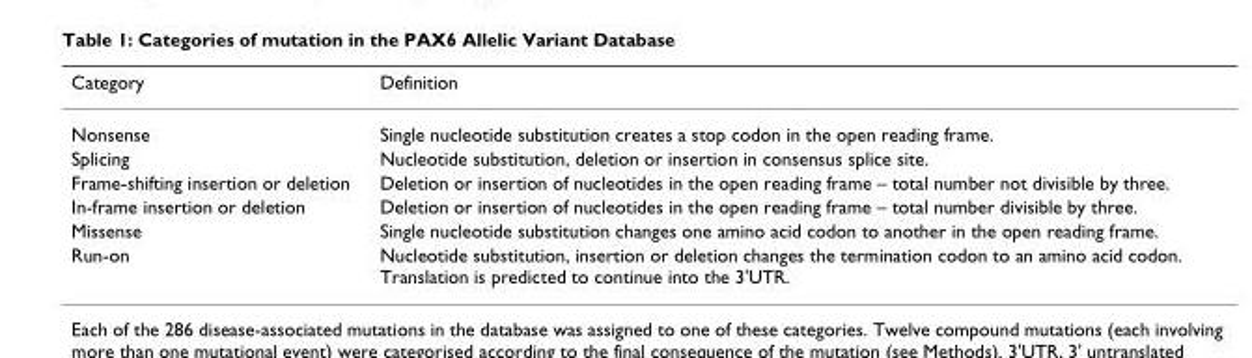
<table><thead><tr><td>Category</td><td>Definition</td></tr></thead><tbody><tr><td>Nonsense</td><td>Single nucleotide substitution creates a stop codon in the open reading frame.</td></tr><tr><td>Splicing</td><td>Nucleotide substitution, deletion or insertion in consensus splice site.</td></tr><tr><td>Frame-shifting insertion or deletion</td><td>Deletion or insertion of nucleotides in the open reading frame – total number not divisible by three.</td></tr><tr><td>In-frame insertion or deletion</td><td>Deletion or insertion of nucleotides in the open reading frame – total number divisible by three.</td></tr><tr><td>Missense</td><td>Single nucleotide substitution changes one amino acid codon to another in the open reading frame.</td></tr><tr><td>Run-on</td><td>Nucleotide substitution, insertion or deletion changes the termination codon to an amino acid codon. Translation is predicted to continue into the 3&#x27;UTR.</td></tr></tbody></table>